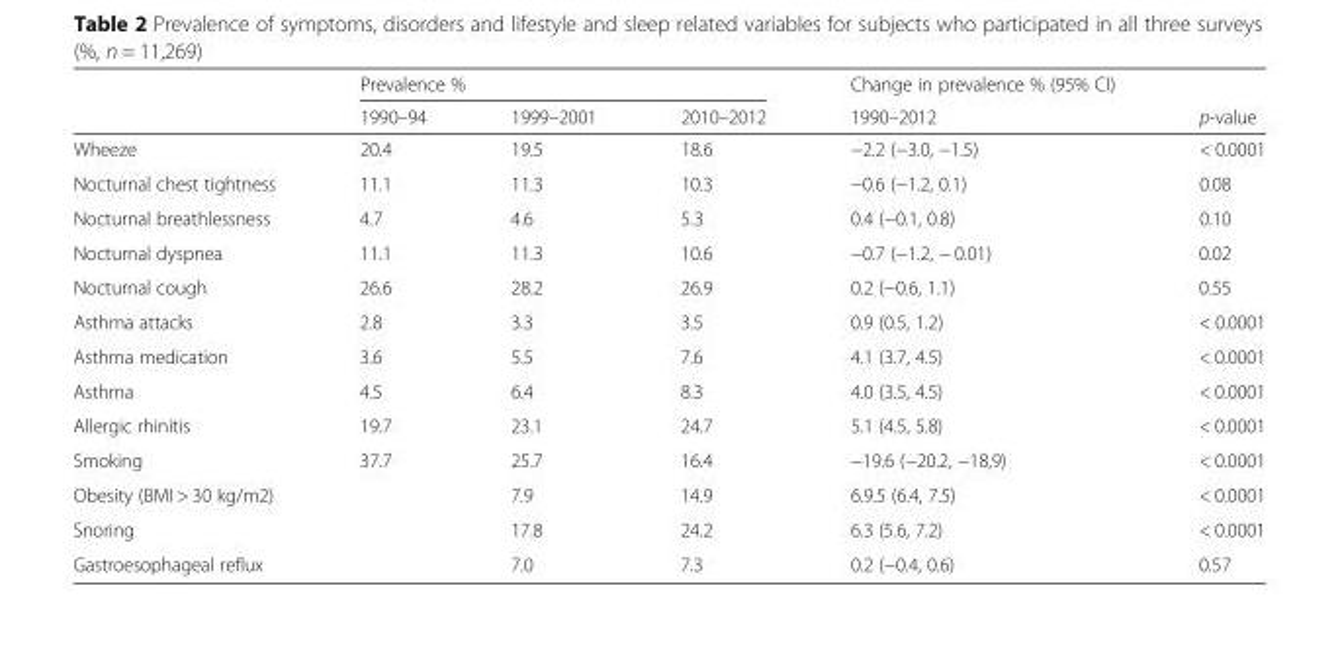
<table><thead><tr><td rowspan="2"></td><td colspan="3">Prevalence %</td><td rowspan="2">Change in prevalence % (95% CI) 1990–2012</td><td rowspan="2">p-value</td></tr><tr><td>1990–94</td><td>1999–2001</td><td>2010–2012</td></tr></thead><tbody><tr><td>Wheeze</td><td>20.4</td><td>19.5</td><td>18.6</td><td>−2.2 (−3.0, −1.5)</td><td>&lt; 0.0001</td></tr><tr><td>Nocturnal chest tightness</td><td>11.1</td><td>11.3</td><td>10.3</td><td>−0.6 (−1.2, 0.1)</td><td>0.08</td></tr><tr><td>Nocturnal breathlessness</td><td>4.7</td><td>4.6</td><td>5.3</td><td>0.4 (−0.1, 0.8)</td><td>0.10</td></tr><tr><td>Nocturnal dyspnea</td><td>11.1</td><td>11.3</td><td>10.6</td><td>−0.7 (−1.2, − 0.01)</td><td>0.02</td></tr><tr><td>Nocturnal cough</td><td>26.6</td><td>28.2</td><td>26.9</td><td>0.2 (−0.6, 1.1)</td><td>0.55</td></tr><tr><td>Asthma attacks</td><td>2.8</td><td>3.3</td><td>3.5</td><td>0.9 (0.5, 1.2)</td><td>&lt; 0.0001</td></tr><tr><td>Asthma medication</td><td>3.6</td><td>5.5</td><td>7.6</td><td>4.1 (3.7, 4.5)</td><td>&lt; 0.0001</td></tr><tr><td>Asthma</td><td>4.5</td><td>6.4</td><td>8.3</td><td>4.0 (3.5, 4.5)</td><td>&lt; 0.0001</td></tr><tr><td>Allergic rhinitis</td><td>19.7</td><td>23.1</td><td>24.7</td><td>5.1 (4.5, 5.8)</td><td>&lt; 0.0001</td></tr><tr><td>Smoking</td><td>37.7</td><td>25.7</td><td>16.4</td><td>−19.6 (−20.2, −18,9)</td><td>&lt; 0.0001</td></tr><tr><td>Obesity (BMI &gt; 30 kg/m2)</td><td></td><td>7.9</td><td>14.9</td><td>6.9.5 (6.4, 7.5)</td><td>&lt; 0.0001</td></tr><tr><td>Snoring</td><td></td><td>17.8</td><td>24.2</td><td>6.3 (5.6, 7.2)</td><td>&lt; 0.0001</td></tr><tr><td>Gastroesophageal reflux</td><td></td><td>7.0</td><td>7.3</td><td>0.2 (−0.4, 0.6)</td><td>0.57</td></tr></tbody></table>